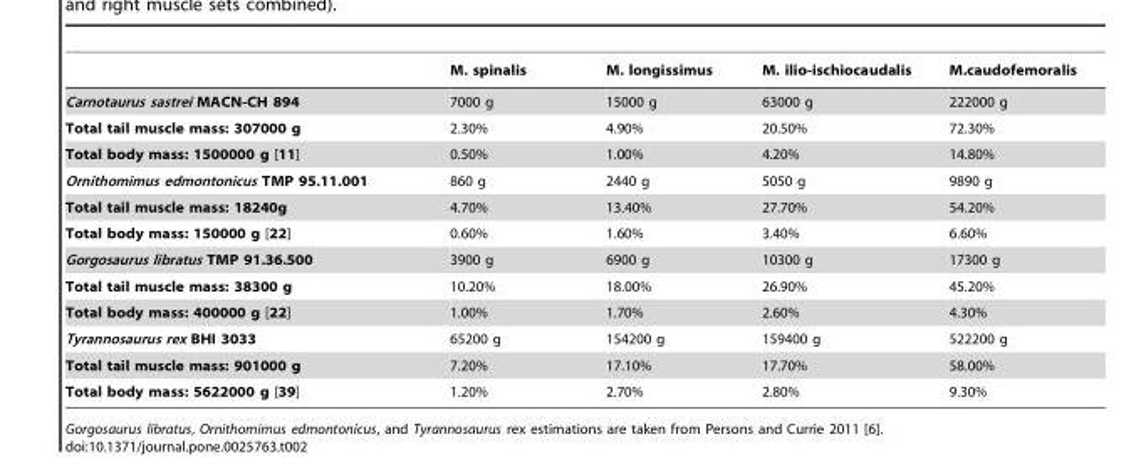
<table><thead><tr><td></td><td>M. spinalis</td><td>M. longissimus</td><td>M. ilio-ischiocaudalis</td><td>M.caudofemoralis</td></tr></thead><tbody><tr><td>Carnotaurus sastrei MACN-CH 894</td><td>7000 g</td><td>15000 g</td><td>63000 g</td><td>222000 g</td></tr><tr><td>Total tail muscle mass: 307000 g</td><td>2.30%</td><td>4.90%</td><td>20.50%</td><td>72.30%</td></tr><tr><td>Total body mass: 1500000 g [11]</td><td>0.50%</td><td>1.00%</td><td>4.20%</td><td>14.80%</td></tr><tr><td>Ornithomimus edmontonicus TMP 95.11.001</td><td>860 g</td><td>2440 g</td><td>5050 g</td><td>9890 g</td></tr><tr><td>Total tail muscle mass: 18240g</td><td>4.70%</td><td>13.40%</td><td>27.70%</td><td>54.20%</td></tr><tr><td>Total body mass: 150000 g [22]</td><td>0.60%</td><td>1.60%</td><td>3.40%</td><td>6.60%</td></tr><tr><td>Gorgosaurus libratus TMP 91.36.500</td><td>3900 g</td><td>6900 g</td><td>10300 g</td><td>17300 g</td></tr><tr><td>Total tail muscle mass: 38300 g</td><td>10.20%</td><td>18.00%</td><td>26.90%</td><td>45.20%</td></tr><tr><td>Total body mass: 400000 g [22]</td><td>1.00%</td><td>1.70%</td><td>2.60%</td><td>4.30%</td></tr><tr><td>Tyrannosaurus rex BHI 3033</td><td>65200 g</td><td>154200 g</td><td>159400 g</td><td>522200 g</td></tr><tr><td>Total tail muscle mass: 901000 g</td><td>7.20%</td><td>17.10%</td><td>17.70%</td><td>58.00%</td></tr><tr><td>Total body mass: 5622000 g [39]</td><td>1.20%</td><td>2.70%</td><td>2.80%</td><td>9.30%</td></tr></tbody></table>